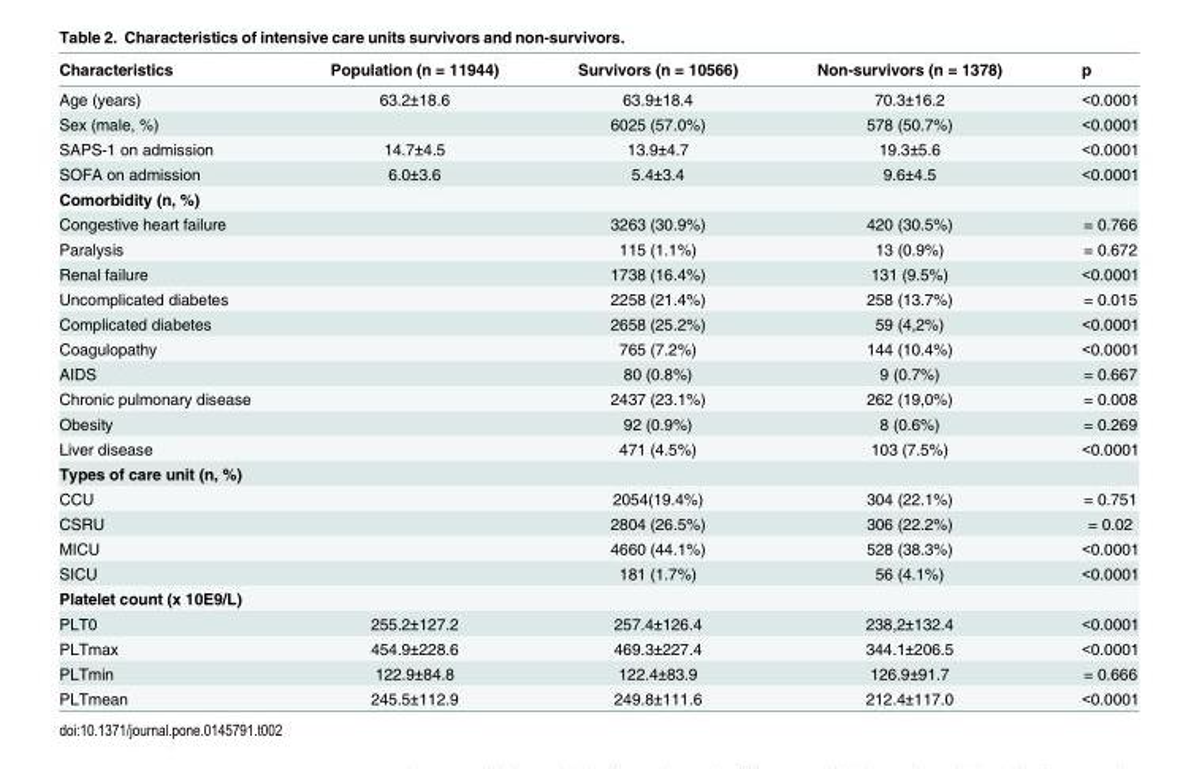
<table><thead><tr><td>Characteristics</td><td>Population (n = 11944)</td><td>Survivors (n = 10566)</td><td>Non-survivors (n = 1378)</td><td>p</td></tr></thead><tbody><tr><td>Age (years)</td><td>63.2±18.6</td><td>63.9±18.4</td><td>70.3±16.2</td><td>&lt;0.0001</td></tr><tr><td>Sex (male, %)</td><td></td><td>6025 (57.0%)</td><td>578 (50.7%)</td><td>&lt;0.0001</td></tr><tr><td>SAPS-1 on admission</td><td>14.7±4.5</td><td>13.9±4.7</td><td>19.3±5.6</td><td>&lt;0.0001</td></tr><tr><td>SOFA on admission</td><td>6.0±3.6</td><td>5.4±3.4</td><td>9.6±4.5</td><td>&lt;0.0001</td></tr><tr><td colspan="5">Comorbidity (n, %)</td></tr><tr><td>Congestive heart failure</td><td></td><td>3263 (30.9%)</td><td>420 (30.5%)</td><td>= 0.766</td></tr><tr><td>Paralysis</td><td></td><td>115 (1.1%)</td><td>13 (0.9%)</td><td>= 0.672</td></tr><tr><td>Renal failure</td><td></td><td>1738 (16.4%)</td><td>131 (9.5%)</td><td>&lt;0.0001</td></tr><tr><td>Uncomplicated diabetes</td><td></td><td>2258 (21.4%)</td><td>258 (13.7%)</td><td>= 0.015</td></tr><tr><td>Complicated diabetes</td><td></td><td>2658 (25.2%)</td><td>59 (4,2%)</td><td>&lt;0.0001</td></tr><tr><td>Coagulopathy</td><td></td><td>765 (7.2%)</td><td>144 (10.4%)</td><td>&lt;0.0001</td></tr><tr><td>AIDS</td><td></td><td>80 (0.8%)</td><td>9 (0.7%)</td><td>= 0.667</td></tr><tr><td>Chronic pulmonary disease</td><td></td><td>2437 (23.1%)</td><td>262 (19,0%)</td><td>= 0.008</td></tr><tr><td>Obesity</td><td></td><td>92 (0.9%)</td><td>8 (0.6%)</td><td>= 0.269</td></tr><tr><td>Liver disease</td><td></td><td>471 (4.5%)</td><td>103 (7.5%)</td><td>&lt;0.0001</td></tr><tr><td colspan="5">Types of care unit (n, %)</td></tr><tr><td>CCU</td><td></td><td>2054(19.4%)</td><td>304 (22.1%)</td><td>= 0.751</td></tr><tr><td>CSRU</td><td></td><td>2804 (26.5%)</td><td>306 (22.2%)</td><td>= 0.02</td></tr><tr><td>MICU</td><td></td><td>4660 (44.1%)</td><td>528 (38.3%)</td><td>&lt;0.0001</td></tr><tr><td>SICU</td><td></td><td>181 (1.7%)</td><td>56 (4.1%)</td><td>&lt;0.0001</td></tr><tr><td colspan="5">Platelet count (x 10E9/L)</td></tr><tr><td>PLT0</td><td>255.2±127.2</td><td>257.4±126.4</td><td>238,2±132.4</td><td>&lt;0.0001</td></tr><tr><td>PLTmax</td><td>454.9±228.6</td><td>469.3±227.4</td><td>344.1±206.5</td><td>&lt;0.0001</td></tr><tr><td>PLTmin</td><td>122.9±84.8</td><td>122.4±83.9</td><td>126.9±91.7</td><td>= 0.666</td></tr><tr><td>PLTmean</td><td>245.5±112.9</td><td>249.8±111.6</td><td>212.4±117.0</td><td>&lt;0.0001</td></tr></tbody></table>